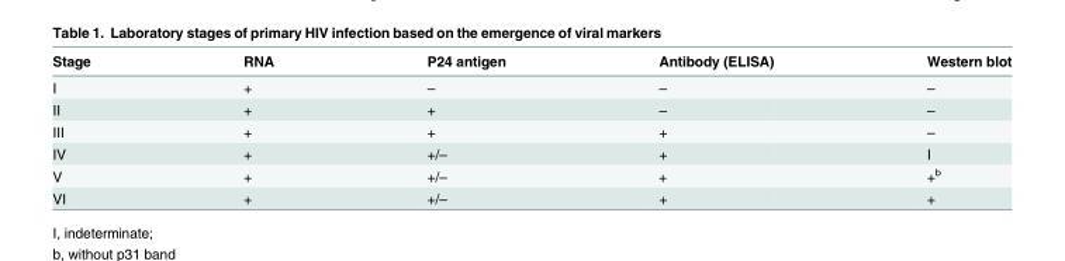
<table><thead><tr><td>Stage</td><td>RNA</td><td>P24 antigen</td><td>Antibody (ELISA)</td><td>Western blot</td></tr></thead><tbody><tr><td>I</td><td>+</td><td>–</td><td>–</td><td>–</td></tr><tr><td>II</td><td>+</td><td>+</td><td>–</td><td>–</td></tr><tr><td>III</td><td>+</td><td>+</td><td>+</td><td>–</td></tr><tr><td>IV</td><td>+</td><td>+/–</td><td>+</td><td>I</td></tr><tr><td>V</td><td>+</td><td>+/–</td><td>+</td><td>+<sup>b</sup></td></tr><tr><td>VI</td><td>+</td><td>+/–</td><td>+</td><td>+</td></tr></tbody></table>